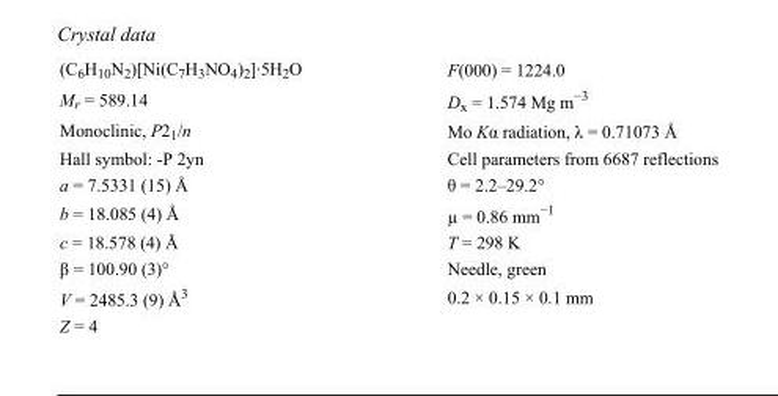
<table><tbody><tr><td>(C<sub>6</sub>H<sub>10</sub>N<sub>2</sub>)[Ni(C<sub>7</sub>H<sub>3</sub>NO<sub>4</sub>)<sub>2</sub>]·5H<sub>2</sub>O</td><td>F(000) = 1224.0</td></tr><tr><td>M<sub>r</sub> = 589.14</td><td>D<sub>x</sub> = 1.574 Mg m<sup>−3</sup></td></tr><tr><td>Monoclinic, P2<sub>1</sub>/n</td><td>Mo Kα radiation, λ = 0.71073 Å</td></tr><tr><td>Hall symbol: -P 2yn</td><td>Cell parameters from 6687 reflections</td></tr><tr><td>a = 7.5331 (15) Å</td><td>θ = 2.2–29.2°</td></tr><tr><td>b = 18.085 (4) Å</td><td>µ = 0.86 mm<sup>−1</sup></td></tr><tr><td>c = 18.578 (4) Å</td><td>T = 298 K</td></tr><tr><td>β = 100.90 (3)°</td><td>Needle, green</td></tr><tr><td>V = 2485.3 (9) Å<sup>3</sup></td><td>0.2 × 0.15 × 0.1 mm</td></tr><tr><td>Z = 4</td><td></td></tr></tbody></table>